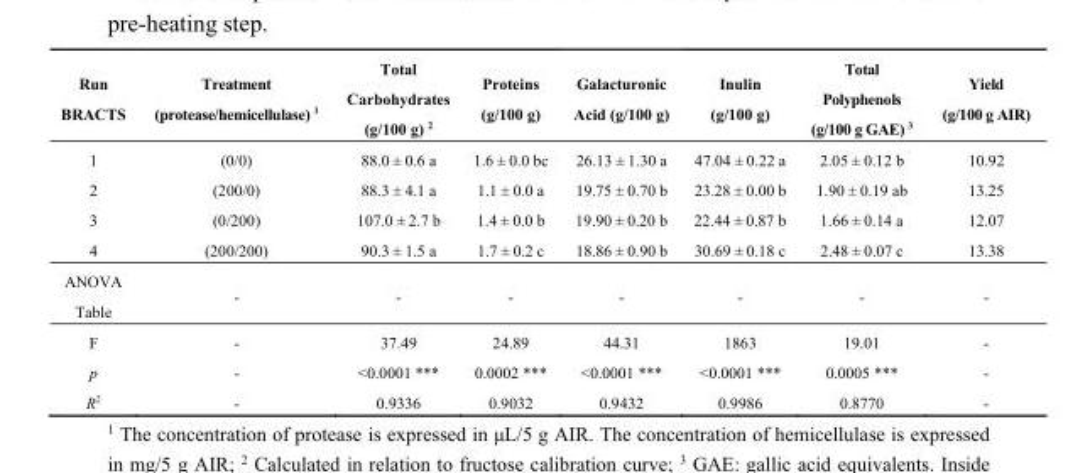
<table><thead><tr><td>Run BRACTS</td><td>Treatment (protease/hemicellulase) <sup>1</sup></td><td>Total Carbohydrates (g/100 g) <sup>2</sup></td><td>Proteins (g/100 g)</td><td>Galacturonic Acid (g/100 g)</td><td>Inulin (g/100 g)</td><td>Total Polyphenols (g/100 g GAE) <sup>3</sup></td><td>Yield (g/100 g AIR)</td></tr></thead><tbody><tr><td>1</td><td>(0/0)</td><td>88.0 ± 0.6 a</td><td>1.6 ± 0.0 bc</td><td>26.13 ± 1.30 a</td><td>47.04 ± 0.22 a</td><td>2.05 ± 0.12 b</td><td>10.92</td></tr><tr><td>2</td><td>(200/0)</td><td>88.3 ± 4.1 a</td><td>1.1 ± 0.0 a</td><td>19.75 ± 0.70 b</td><td>23.28 ± 0.00 b</td><td>1.90 ± 0.19 ab</td><td>13.25</td></tr><tr><td>3</td><td>(0/200)</td><td>107.0 ± 2.7 b</td><td>1.4 ± 0.0 b</td><td>19.90 ± 0.20 b</td><td>22.44 ± 0.87 b</td><td>1.66 ± 0.14 a</td><td>12.07</td></tr><tr><td>4</td><td>(200/200)</td><td>90.3 ± 1.5 a</td><td>1.7 ± 0.2 c</td><td>18.86 ± 0.90 b</td><td>30.69 ± 0.18 c</td><td>2.48 ± 0.07 c</td><td>13.38</td></tr><tr><td>ANOVA Table</td><td>-</td><td>-</td><td>-</td><td>-</td><td>-</td><td>-</td><td>-</td></tr><tr><td>F</td><td>-</td><td>37.49</td><td>24.89</td><td>44.31</td><td>1863</td><td>19.01</td><td>-</td></tr><tr><td>p</td><td>-</td><td>&lt;0.0001 ***</td><td>0.0002 ***</td><td>&lt;0.0001 ***</td><td>&lt;0.0001 ***</td><td>0.0005 ***</td><td>-</td></tr><tr><td>R<sup>2</sup></td><td>-</td><td>0.9336</td><td>0.9032</td><td>0.9432</td><td>0.9986</td><td>0.8770</td><td>-</td></tr></tbody></table>